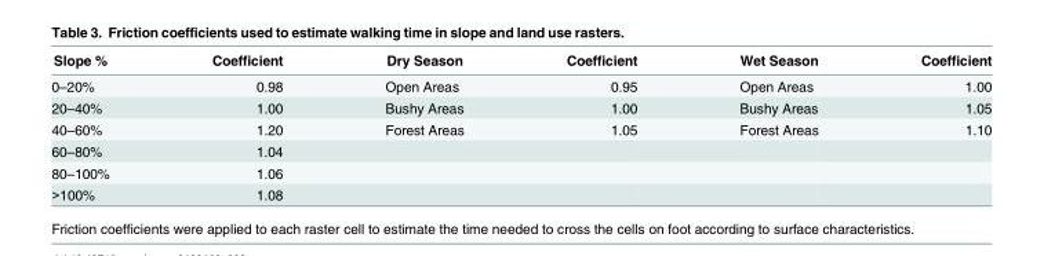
<table><thead><tr><td>Slope %</td><td>Coefficient</td><td>Dry Season</td><td>Coefficient</td><td>Wet Season</td><td>Coefficient</td></tr></thead><tbody><tr><td>0–20%</td><td>0.98</td><td>Open Areas</td><td>0.95</td><td>Open Areas</td><td>1.00</td></tr><tr><td>20–40%</td><td>1.00</td><td>Bushy Areas</td><td>1.00</td><td>Bushy Areas</td><td>1.05</td></tr><tr><td>40–60%</td><td>1.20</td><td>Forest Areas</td><td>1.05</td><td>Forest Areas</td><td>1.10</td></tr><tr><td>60–80%</td><td>1.04</td><td></td><td></td><td></td><td></td></tr><tr><td>80–100%</td><td>1.06</td><td></td><td></td><td></td><td></td></tr><tr><td>&gt;100%</td><td>1.08</td><td></td><td></td><td></td><td></td></tr></tbody></table>